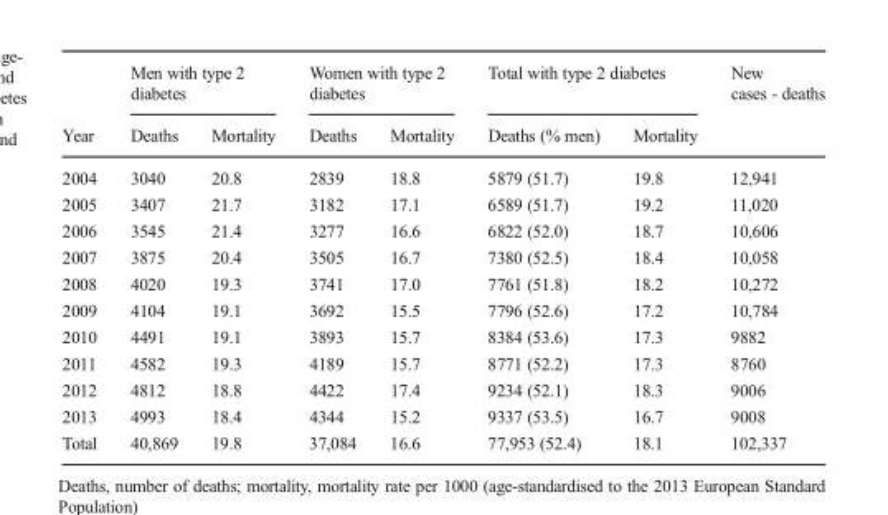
<table><thead><tr><td rowspan="2">Year</td><td colspan="2">Men with type 2 diabetes</td><td colspan="2">Women with type 2 diabetes</td><td colspan="2">Total with type 2 diabetes</td><td rowspan="2">New cases - deaths</td></tr><tr><td>Deaths</td><td>Mortality</td><td>Deaths</td><td>Mortality</td><td>Deaths (% men)</td><td>Mortality</td></tr></thead><tbody><tr><td>2004</td><td>3040</td><td>20.8</td><td>2839</td><td>18.8</td><td>5879 (51.7)</td><td>19.8</td><td>12,941</td></tr><tr><td>2005</td><td>3407</td><td>21.7</td><td>3182</td><td>17.1</td><td>6589 (51.7)</td><td>19.2</td><td>11,020</td></tr><tr><td>2006</td><td>3545</td><td>21.4</td><td>3277</td><td>16.6</td><td>6822 (52.0)</td><td>18.7</td><td>10,606</td></tr><tr><td>2007</td><td>3875</td><td>20.4</td><td>3505</td><td>16.7</td><td>7380 (52.5)</td><td>18.4</td><td>10,058</td></tr><tr><td>2008</td><td>4020</td><td>19.3</td><td>3741</td><td>17.0</td><td>7761 (51.8)</td><td>18.2</td><td>10,272</td></tr><tr><td>2009</td><td>4104</td><td>19.1</td><td>3692</td><td>15.5</td><td>7796 (52.6)</td><td>17.2</td><td>10,784</td></tr><tr><td>2010</td><td>4491</td><td>19.1</td><td>3893</td><td>15.7</td><td>8384 (53.6)</td><td>17.3</td><td>9882</td></tr><tr><td>2011</td><td>4582</td><td>19.3</td><td>4189</td><td>15.7</td><td>8771 (52.2)</td><td>17.3</td><td>8760</td></tr><tr><td>2012</td><td>4812</td><td>18.8</td><td>4422</td><td>17.4</td><td>9234 (52.1)</td><td>18.3</td><td>9006</td></tr><tr><td>2013</td><td>4993</td><td>18.4</td><td>4344</td><td>15.2</td><td>9337 (53.5)</td><td>16.7</td><td>9008</td></tr><tr><td>Total</td><td>40,869</td><td>19.8</td><td>37,084</td><td>16.6</td><td>77,953 (52.4)</td><td>18.1</td><td>102,337</td></tr></tbody></table>